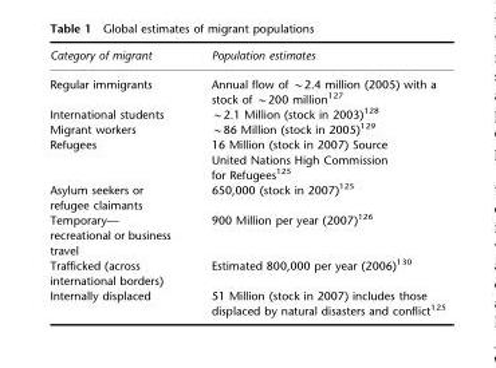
<table><thead><tr><td>Category of migrant</td><td>Population estimates</td></tr></thead><tbody><tr><td>Regular immigrants</td><td>Annual flow of ~2.4 million (2005) with a stock of ~200 million<sup>127</sup></td></tr><tr><td>International students</td><td>~2.1 Million (stock in 2003)<sup>128</sup></td></tr><tr><td>Migrant workers</td><td>~86 Million (stock in 2005)<sup>129</sup></td></tr><tr><td>Refugees</td><td>16 Million (stock in 2007) Source United Nations High Commission for Refugees<sup>125</sup></td></tr><tr><td>Asylum seekers or refugee claimants</td><td>650,000 (stock in 2007)<sup>125</sup></td></tr><tr><td>Temporary–– recreational or business travel</td><td>900 Million per year (2007)<sup>126</sup></td></tr><tr><td>Trafficked (across international borders)</td><td>Estimated 800,000 per year (2006)<sup>130</sup></td></tr><tr><td>Internally displaced</td><td>51 Million (stock in 2007) includes those displaced by natural disasters and conflict<sup>125</sup></td></tr></tbody></table>